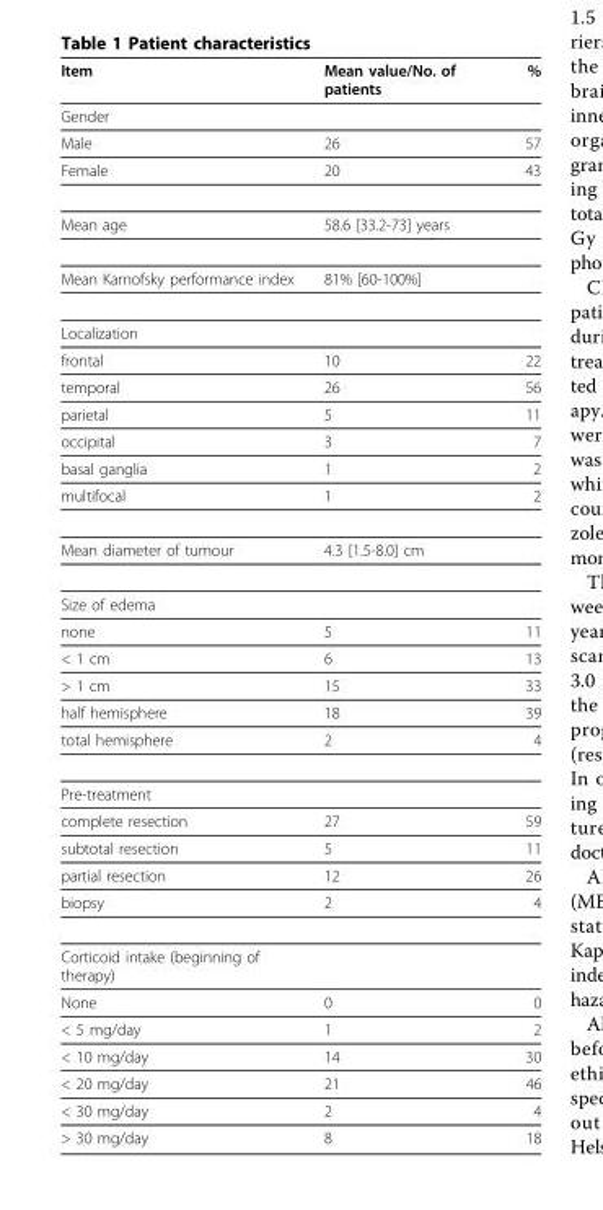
<table><thead><tr><td>Item</td><td>Mean value/No. of patients</td><td>%</td></tr></thead><tbody><tr><td colspan="3">Gender</td></tr><tr><td>Male</td><td>26</td><td>57</td></tr><tr><td>Female</td><td>20</td><td>43</td></tr><tr><td>Mean age</td><td>58.6 [33.2-73] years</td><td></td></tr><tr><td>Mean Karnofsky performance index</td><td>81% [60-100%]</td><td></td></tr><tr><td colspan="3">Localization</td></tr><tr><td>frontal</td><td>10</td><td>22</td></tr><tr><td>temporal</td><td>26</td><td>56</td></tr><tr><td>parietal</td><td>5</td><td>11</td></tr><tr><td>occipital</td><td>3</td><td>7</td></tr><tr><td>basal ganglia</td><td>1</td><td>2</td></tr><tr><td>multifocal</td><td>1</td><td>2</td></tr><tr><td>Mean diameter of tumour</td><td>4.3 [1.5-8.0] cm</td><td></td></tr><tr><td colspan="3">Size of edema</td></tr><tr><td>none</td><td>5</td><td>11</td></tr><tr><td>&lt; 1 cm</td><td>6</td><td>13</td></tr><tr><td>&gt; 1 cm</td><td>15</td><td>33</td></tr><tr><td>half hemisphere</td><td>18</td><td>39</td></tr><tr><td>total hemisphere</td><td>2</td><td>4</td></tr><tr><td colspan="3">Pre-treatment</td></tr><tr><td>complete resection</td><td>27</td><td>59</td></tr><tr><td>subtotal resection</td><td>5</td><td>11</td></tr><tr><td>partial resection</td><td>12</td><td>26</td></tr><tr><td>biopsy</td><td>2</td><td>4</td></tr><tr><td colspan="3">Corticoid intake (beginning of therapy)</td></tr><tr><td>None</td><td>0</td><td>0</td></tr><tr><td>&lt; 5 mg/day</td><td>1</td><td>2</td></tr><tr><td>&lt; 10 mg/day</td><td>14</td><td>30</td></tr><tr><td>&lt; 20 mg/day</td><td>21</td><td>46</td></tr><tr><td>&lt; 30 mg/day</td><td>2</td><td>4</td></tr><tr><td>&gt; 30 mg/day</td><td>8</td><td>18</td></tr></tbody></table>